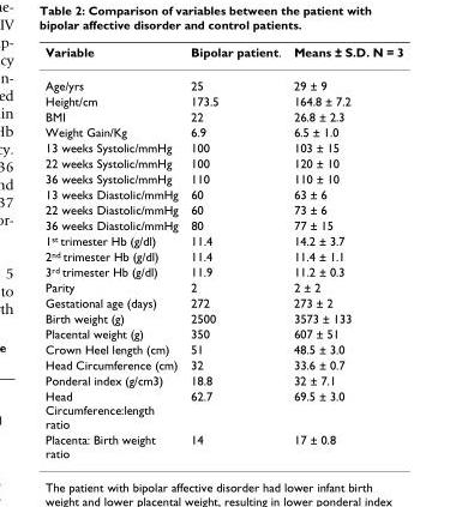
<table><thead><tr><td>Variable</td><td>Bipolar patient.</td><td>Means ± S.D. N = 3</td></tr></thead><tbody><tr><td>Age/yrs</td><td>25</td><td>29 ± 9</td></tr><tr><td>Height/cm</td><td>173.5</td><td>164.8 ± 7.2</td></tr><tr><td>BMI</td><td>22</td><td>26.8 ± 2.3</td></tr><tr><td>Weight Gain/Kg</td><td>6.9</td><td>6.5 ± 1.0</td></tr><tr><td>13 weeks Systolic/mmHg</td><td>100</td><td>103 ± 15</td></tr><tr><td>22 weeks Systolic/mmHg</td><td>100</td><td>120 ± 10</td></tr><tr><td>36 weeks Systolic/mmHg</td><td>110</td><td>110 ± 10</td></tr><tr><td>13 weeks Diastolic/mmHg</td><td>60</td><td>63 ± 6</td></tr><tr><td>22 weeks Diastolic/mmHg</td><td>60</td><td>73 ± 6</td></tr><tr><td>36 weeks Diastolic/mmHg</td><td>80</td><td>77 ± 15</td></tr><tr><td>1<sup>st</sup> trimester Hb (g/dl)</td><td>11.4</td><td>14.2 ± 3.7</td></tr><tr><td>2<sup>nd</sup> trimester Hb (g/dl)</td><td>11.4</td><td>11.4 ± 1.1</td></tr><tr><td>3<sup>rd</sup> trimester Hb (g/dl)</td><td>11.9</td><td>11.2 ± 0.3</td></tr><tr><td>Parity</td><td>2</td><td>2 ± 2</td></tr><tr><td>Gestational age (days)</td><td>272</td><td>273 ± 2</td></tr><tr><td>Birth weight (g)</td><td>2500</td><td>3573 ± 133</td></tr><tr><td>Placental weight (g)</td><td>350</td><td>607 ± 51</td></tr><tr><td>Crown Heel length (cm)</td><td>51</td><td>48.5 ± 3.0</td></tr><tr><td>Head Circumference (cm)</td><td>32</td><td>33.6 ± 0.7</td></tr><tr><td>Ponderal index (g/cm3)</td><td>18.8</td><td>32 ± 7.1</td></tr><tr><td>Head Circumference:length ratio</td><td>62.7</td><td>69.5 ± 3.0</td></tr><tr><td>Placenta: Birth weight ratio</td><td>14</td><td>17 ± 0.8</td></tr></tbody></table>